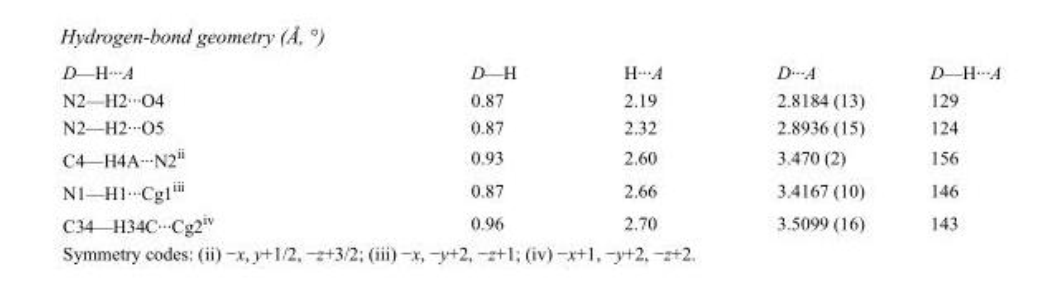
<table><tbody><tr><td>D—H···A</td><td>D—H</td><td>H···A</td><td>D···A</td><td>D—H···A</td></tr><tr><td>N2—H2···O4</td><td>0.87</td><td>2.19</td><td>2.8184 (13)</td><td>129</td></tr><tr><td>N2—H2···O5</td><td>0.87</td><td>2.32</td><td>2.8936 (15)</td><td>124</td></tr><tr><td>C4—H4A···N2<sup>ii</sup></td><td>0.93</td><td>2.60</td><td>3.470 (2)</td><td>156</td></tr><tr><td>N1—H1···Cg1<sup>iii</sup></td><td>0.87</td><td>2.66</td><td>3.4167 (10)</td><td>146</td></tr><tr><td>C34—H34C···Cg2<sup>iv</sup></td><td>0.96</td><td>2.70</td><td>3.5099 (16)</td><td>143</td></tr></tbody></table>